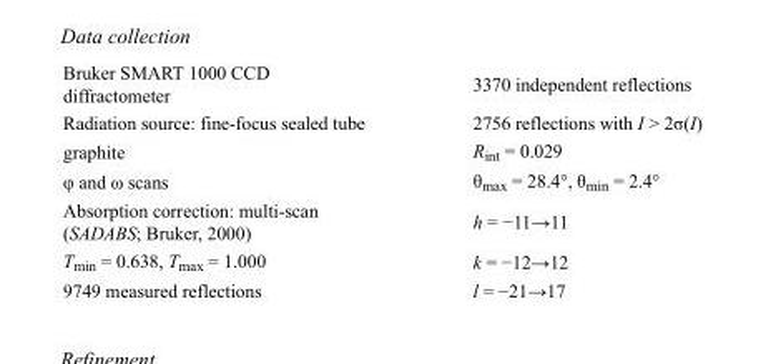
<table><tbody><tr><td>Bruker SMART 1000 CCD diffractometer</td><td>3370 independent reflections</td></tr><tr><td>Radiation source: fine-focus sealed tube</td><td>2756 reflections with I &gt; 2σ(I)</td></tr><tr><td>graphite</td><td>R<sub>int</sub> = 0.029</td></tr><tr><td>φ and ω scans</td><td>θ<sub>max</sub> = 28.4°, θ<sub>min</sub> = 2.4°</td></tr><tr><td>Absorption correction: multi-scan (SADABS; Bruker, 2000)</td><td>h = −11→11</td></tr><tr><td>T<sub>min</sub> = 0.638, T<sub>max</sub> = 1.000</td><td>k = −12→12</td></tr><tr><td>9749 measured reflections</td><td>l = −21→17</td></tr></tbody></table>